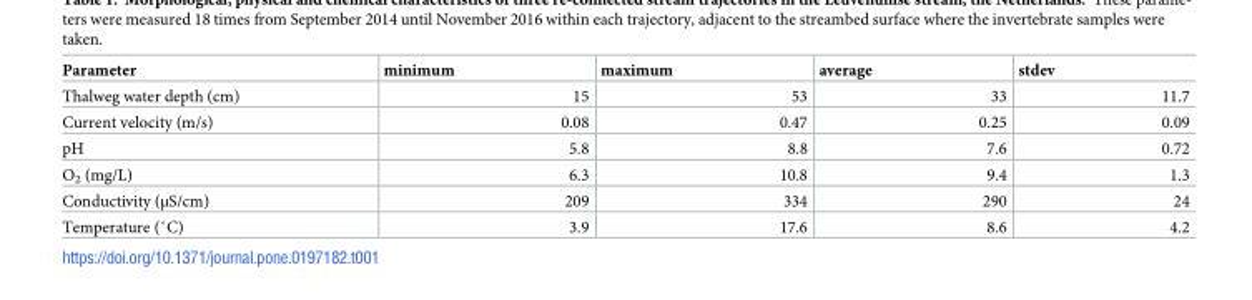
<table><thead><tr><td>Parameter</td><td>minimum</td><td>maximum</td><td>average</td><td>stdev</td></tr></thead><tbody><tr><td>Thalweg water depth (cm)</td><td>15</td><td>53</td><td>33</td><td>11.7</td></tr><tr><td>Current velocity (m/s)</td><td>0.08</td><td>0.47</td><td>0.25</td><td>0.09</td></tr><tr><td>pH</td><td>5.8</td><td>8.8</td><td>7.6</td><td>0.72</td></tr><tr><td>O<sub>2</sub> (mg/L)</td><td>6.3</td><td>10.8</td><td>9.4</td><td>1.3</td></tr><tr><td>Conductivity (μS/cm)</td><td>209</td><td>334</td><td>290</td><td>24</td></tr><tr><td>Temperature (˚C)</td><td>3.9</td><td>17.6</td><td>8.6</td><td>4.2</td></tr></tbody></table>